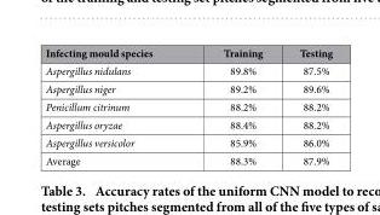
<table><thead><tr><td>Infecting mould species</td><td>Training</td><td>Testing</td></tr></thead><tbody><tr><td>Aspergillus nidulans</td><td>89.8%</td><td>87.5%</td></tr><tr><td>Aspergillus niger</td><td>89.2%</td><td>89.6%</td></tr><tr><td>Penicillum citrinum</td><td>88.2%</td><td>88.2%</td></tr><tr><td>Aspergillus oryzae</td><td>88.4%</td><td>88.2%</td></tr><tr><td>Aspergillus versicolor</td><td>85.9%</td><td>86.0%</td></tr><tr><td>Average</td><td>88.3%</td><td>87.9%</td></tr></tbody></table>